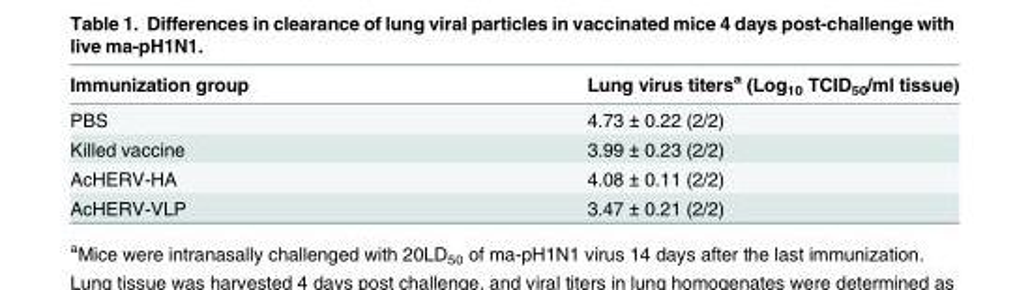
<table><thead><tr><td>Immunization group</td><td>Lung virus titers<sup>a</sup> (Log<sub>10</sub> TCID<sub>50</sub>/ml tissue)</td></tr></thead><tbody><tr><td>PBS</td><td>4.73 ± 0.22 (2/2)</td></tr><tr><td>Killed vaccine</td><td>3.99 ± 0.23 (2/2)</td></tr><tr><td>AcHERV-HA</td><td>4.08 ± 0.11 (2/2)</td></tr><tr><td>AcHERV-VLP</td><td>3.47 ± 0.21 (2/2)</td></tr></tbody></table>